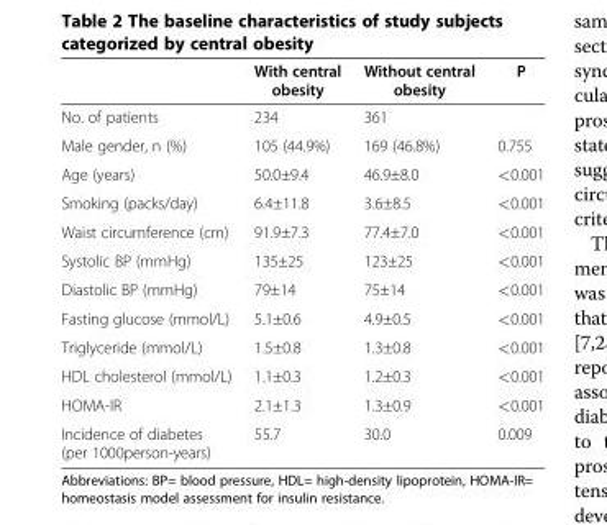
<table><thead><tr><td></td><td>With central obesity</td><td>Without central obesity</td><td>P</td></tr></thead><tbody><tr><td>No. of patients</td><td>234</td><td>361</td><td></td></tr><tr><td>Male gender, n (%)</td><td>105 (44.9%)</td><td>169 (46.8%)</td><td>0.755</td></tr><tr><td>Age (years)</td><td>50.0±9.4</td><td>46.9±8.0</td><td>&lt;0.001</td></tr><tr><td>Smoking (packs/day)</td><td>6.4±11.8</td><td>3.6±8.5</td><td>&lt;0.001</td></tr><tr><td>Waist circumference (cm)</td><td>91.9±7.3</td><td>77.4±7.0</td><td>&lt;0.001</td></tr><tr><td>Systolic BP (mmHg)</td><td>135±25</td><td>123±25</td><td>&lt;0.001</td></tr><tr><td>Diastolic BP (mmHg)</td><td>79±14</td><td>75±14</td><td>&lt;0.001</td></tr><tr><td>Fasting glucose (mmol/L)</td><td>5.1±0.6</td><td>4.9±0.5</td><td>&lt;0.001</td></tr><tr><td>Triglyceride (mmol/L)</td><td>1.5±0.8</td><td>1.3±0.8</td><td>&lt;0.001</td></tr><tr><td>HDL cholesterol (mmol/L)</td><td>1.1±0.3</td><td>1.2±0.3</td><td>&lt;0.001</td></tr><tr><td>HOMA-IR</td><td>2.1±1.3</td><td>1.3±0.9</td><td>&lt;0.001</td></tr><tr><td>Incidence of diabetes (per 1000person-years)</td><td>55.7</td><td>30.0</td><td>0.009</td></tr></tbody></table>